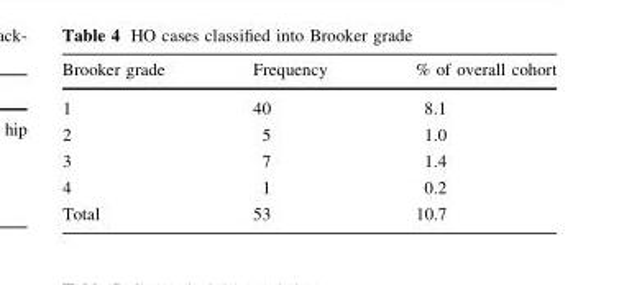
<table><thead><tr><td>Brooker grade</td><td>Frequency</td><td>% of overall cohort</td></tr></thead><tbody><tr><td>1</td><td>40</td><td>8.1</td></tr><tr><td>2</td><td>5</td><td>1.0</td></tr><tr><td>3</td><td>7</td><td>1.4</td></tr><tr><td>4</td><td>1</td><td>0.2</td></tr><tr><td>Total</td><td>53</td><td>10.7</td></tr></tbody></table>